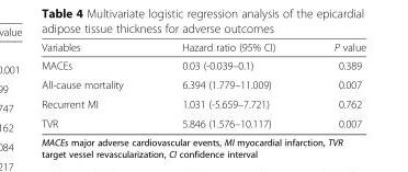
<table><thead><tr><td>Variables</td><td>Hazard ratio (95% CI)</td><td>P value</td></tr></thead><tbody><tr><td>MACEs</td><td>0.03 (-0.039–0.1)</td><td>0.389</td></tr><tr><td>All-cause mortality</td><td>6.394 (1.779–11.009)</td><td>0.007</td></tr><tr><td>Recurrent MI</td><td>1.031 (-5.659–7.721)</td><td>0.762</td></tr><tr><td>TVR</td><td>5.846 (1.576–10.117)</td><td>0.007</td></tr></tbody></table>